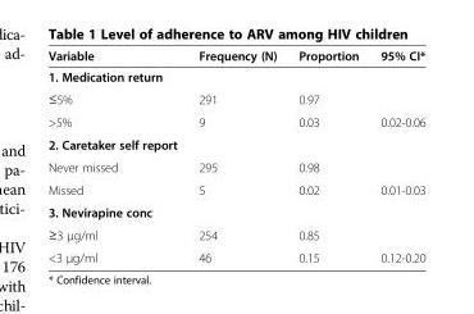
<table><thead><tr><td>Variable</td><td>Frequency (N)</td><td>Proportion</td><td>95% CI*</td></tr></thead><tbody><tr><td colspan="4">1. Medication return</td></tr><tr><td>≤5%</td><td>291</td><td>0.97</td><td></td></tr><tr><td>&gt;5%</td><td>9</td><td>0.03</td><td>0.02-0.06</td></tr><tr><td colspan="4">2. Caretaker self report</td></tr><tr><td>Never missed</td><td>295</td><td>0.98</td><td></td></tr><tr><td>Missed</td><td>5</td><td>0.02</td><td>0.01-0.03</td></tr><tr><td colspan="4">3. Nevirapine conc</td></tr><tr><td>≥3 μg/ml</td><td>254</td><td>0.85</td><td></td></tr><tr><td>&lt;3 μg/ml</td><td>46</td><td>0.15</td><td>0.12-0.20</td></tr></tbody></table>